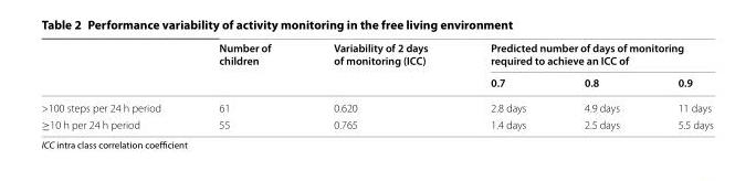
<table><thead><tr><td rowspan="2"></td><td rowspan="2">Number of children</td><td rowspan="2">Variability of 2 days of monitoring (ICC)</td><td colspan="3">Predicted number of days of monitoring required to achieve an ICC of</td></tr><tr><td>0.7</td><td>0.8</td><td>0.9</td></tr></thead><tbody><tr><td>&gt;100 steps per 24 h period</td><td>61</td><td>0.620</td><td>2.8 days</td><td>4.9 days</td><td>11 days</td></tr><tr><td>≥10 h per 24 h period</td><td>55</td><td>0.765</td><td>1.4 days</td><td>2.5 days</td><td>5.5 days</td></tr></tbody></table>